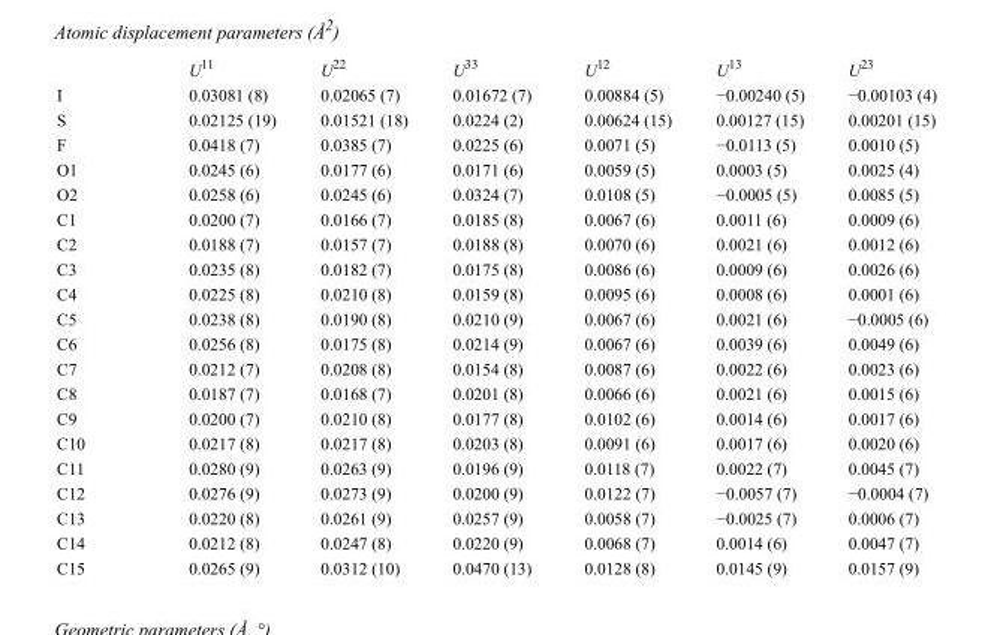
<table><thead><tr><td></td><td>U<sup>11</sup></td><td>U<sup>22</sup></td><td>U<sup>33</sup></td><td>U<sup>12</sup></td><td>U<sup>13</sup></td><td>U<sup>23</sup></td></tr></thead><tbody><tr><td>I</td><td>0.03081 (8)</td><td>0.02065 (7)</td><td>0.01672 (7)</td><td>0.00884 (5)</td><td>−0.00240 (5)</td><td>−0.00103 (4)</td></tr><tr><td>S</td><td>0.02125 (19)</td><td>0.01521 (18)</td><td>0.0224 (2)</td><td>0.00624 (15)</td><td>0.00127 (15)</td><td>0.00201 (15)</td></tr><tr><td>F</td><td>0.0418 (7)</td><td>0.0385 (7)</td><td>0.0225 (6)</td><td>0.0071 (5)</td><td>−0.0113 (5)</td><td>0.0010 (5)</td></tr><tr><td>O1</td><td>0.0245 (6)</td><td>0.0177 (6)</td><td>0.0171 (6)</td><td>0.0059 (5)</td><td>0.0003 (5)</td><td>0.0025 (4)</td></tr><tr><td>O2</td><td>0.0258 (6)</td><td>0.0245 (6)</td><td>0.0324 (7)</td><td>0.0108 (5)</td><td>−0.0005 (5)</td><td>0.0085 (5)</td></tr><tr><td>C1</td><td>0.0200 (7)</td><td>0.0166 (7)</td><td>0.0185 (8)</td><td>0.0067 (6)</td><td>0.0011 (6)</td><td>0.0009 (6)</td></tr><tr><td>C2</td><td>0.0188 (7)</td><td>0.0157 (7)</td><td>0.0188 (8)</td><td>0.0070 (6)</td><td>0.0021 (6)</td><td>0.0012 (6)</td></tr><tr><td>C3</td><td>0.0235 (8)</td><td>0.0182 (7)</td><td>0.0175 (8)</td><td>0.0086 (6)</td><td>0.0009 (6)</td><td>0.0026 (6)</td></tr><tr><td>C4</td><td>0.0225 (8)</td><td>0.0210 (8)</td><td>0.0159 (8)</td><td>0.0095 (6)</td><td>0.0008 (6)</td><td>0.0001 (6)</td></tr><tr><td>C5</td><td>0.0238 (8)</td><td>0.0190 (8)</td><td>0.0210 (9)</td><td>0.0067 (6)</td><td>0.0021 (6)</td><td>−0.0005 (6)</td></tr><tr><td>C6</td><td>0.0256 (8)</td><td>0.0175 (8)</td><td>0.0214 (9)</td><td>0.0067 (6)</td><td>0.0039 (6)</td><td>0.0049 (6)</td></tr><tr><td>C7</td><td>0.0212 (7)</td><td>0.0208 (8)</td><td>0.0154 (8)</td><td>0.0087 (6)</td><td>0.0022 (6)</td><td>0.0023 (6)</td></tr><tr><td>C8</td><td>0.0187 (7)</td><td>0.0168 (7)</td><td>0.0201 (8)</td><td>0.0066 (6)</td><td>0.0021 (6)</td><td>0.0015 (6)</td></tr><tr><td>C9</td><td>0.0200 (7)</td><td>0.0210 (8)</td><td>0.0177 (8)</td><td>0.0102 (6)</td><td>0.0014 (6)</td><td>0.0017 (6)</td></tr><tr><td>C10</td><td>0.0217 (8)</td><td>0.0217 (8)</td><td>0.0203 (8)</td><td>0.0091 (6)</td><td>0.0017 (6)</td><td>0.0020 (6)</td></tr><tr><td>C11</td><td>0.0280 (9)</td><td>0.0263 (9)</td><td>0.0196 (9)</td><td>0.0118 (7)</td><td>0.0022 (7)</td><td>0.0045 (7)</td></tr><tr><td>C12</td><td>0.0276 (9)</td><td>0.0273 (9)</td><td>0.0200 (9)</td><td>0.0122 (7)</td><td>−0.0057 (7)</td><td>−0.0004 (7)</td></tr><tr><td>C13</td><td>0.0220 (8)</td><td>0.0261 (9)</td><td>0.0257 (9)</td><td>0.0058 (7)</td><td>−0.0025 (7)</td><td>0.0006 (7)</td></tr><tr><td>C14</td><td>0.0212 (8)</td><td>0.0247 (8)</td><td>0.0220 (9)</td><td>0.0068 (7)</td><td>0.0014 (6)</td><td>0.0047 (7)</td></tr><tr><td>C15</td><td>0.0265 (9)</td><td>0.0312 (10)</td><td>0.0470 (13)</td><td>0.0128 (8)</td><td>0.0145 (9)</td><td>0.0157 (9)</td></tr></tbody></table>